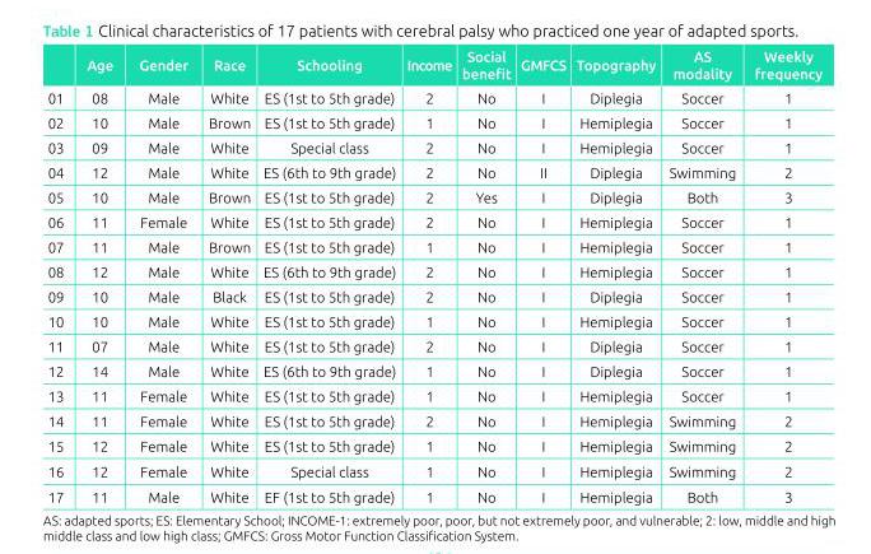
<table><thead><tr><td></td><td>Age</td><td>Gender</td><td>Race</td><td>Schooling</td><td>Income</td><td>Social benefit</td><td>GMFCS</td><td>Topography</td><td>AS modality</td><td>Weekly frequency</td></tr></thead><tbody><tr><td>01</td><td>08</td><td>Male</td><td>White</td><td>ES (1st to 5th grade)</td><td>2</td><td>No</td><td>I</td><td>Diplegia</td><td>Soccer</td><td>1</td></tr><tr><td>02</td><td>10</td><td>Male</td><td>Brown</td><td>ES (1st to 5th grade)</td><td>1</td><td>No</td><td>I</td><td>Hemiplegia</td><td>Soccer</td><td>1</td></tr><tr><td>03</td><td>09</td><td>Male</td><td>White</td><td>Special class</td><td>2</td><td>No</td><td>I</td><td>Hemiplegia</td><td>Soccer</td><td>1</td></tr><tr><td>04</td><td>12</td><td>Male</td><td>White</td><td>ES (6th to 9th grade)</td><td>2</td><td>No</td><td>II</td><td>Diplegia</td><td>Swimming</td><td>2</td></tr><tr><td>05</td><td>10</td><td>Male</td><td>Brown</td><td>ES (1st to 5th grade)</td><td>2</td><td>Yes</td><td>I</td><td>Diplegia</td><td>Both</td><td>3</td></tr><tr><td>06</td><td>11</td><td>Female</td><td>White</td><td>ES (1st to 5th grade)</td><td>2</td><td>No</td><td>I</td><td>Hemiplegia</td><td>Soccer</td><td>1</td></tr><tr><td>07</td><td>11</td><td>Male</td><td>Brown</td><td>ES (1st to 5th grade)</td><td>1</td><td>No</td><td>I</td><td>Hemiplegia</td><td>Soccer</td><td>1</td></tr><tr><td>08</td><td>12</td><td>Male</td><td>White</td><td>ES (6th to 9th grade)</td><td>2</td><td>No</td><td>I</td><td>Hemiplegia</td><td>Soccer</td><td>1</td></tr><tr><td>09</td><td>10</td><td>Male</td><td>Black</td><td>ES (1st to 5th grade)</td><td>2</td><td>No</td><td>I</td><td>Diplegia</td><td>Soccer</td><td>1</td></tr><tr><td>10</td><td>10</td><td>Male</td><td>White</td><td>ES (1st to 5th grade)</td><td>1</td><td>No</td><td>I</td><td>Hemiplegia</td><td>Soccer</td><td>1</td></tr><tr><td>11</td><td>07</td><td>Male</td><td>White</td><td>ES (1st to 5th grade)</td><td>2</td><td>No</td><td>I</td><td>Diplegia</td><td>Soccer</td><td>1</td></tr><tr><td>12</td><td>14</td><td>Male</td><td>White</td><td>ES (6th to 9th grade)</td><td>1</td><td>No</td><td>I</td><td>Diplegia</td><td>Soccer</td><td>1</td></tr><tr><td>13</td><td>11</td><td>Female</td><td>White</td><td>ES (1st to 5th grade)</td><td>1</td><td>No</td><td>I</td><td>Hemiplegia</td><td>Soccer</td><td>1</td></tr><tr><td>14</td><td>11</td><td>Female</td><td>White</td><td>ES (1st to 5th grade)</td><td>2</td><td>No</td><td>I</td><td>Hemiplegia</td><td>Swimming</td><td>2</td></tr><tr><td>15</td><td>12</td><td>Female</td><td>White</td><td>ES (1st to 5th grade)</td><td>1</td><td>No</td><td>I</td><td>Hemiplegia</td><td>Swimming</td><td>2</td></tr><tr><td>16</td><td>12</td><td>Female</td><td>White</td><td>Special class</td><td>1</td><td>No</td><td>I</td><td>Hemiplegia</td><td>Swimming</td><td>2</td></tr><tr><td>17</td><td>11</td><td>Male</td><td>White</td><td>EF (1st to 5th grade)</td><td>1</td><td>No</td><td>I</td><td>Hemiplegia</td><td>Both</td><td>3</td></tr></tbody></table>